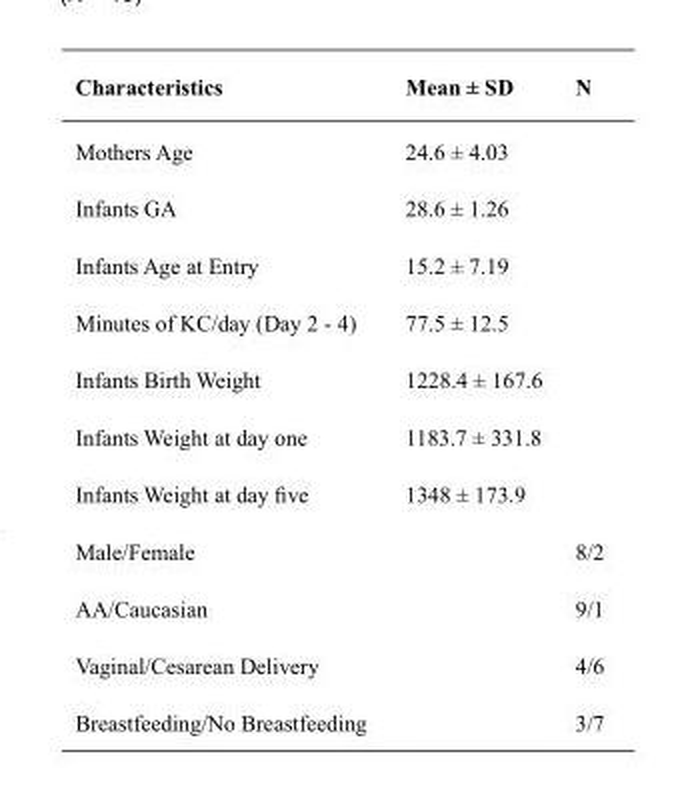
<table><thead><tr><td>Characteristics</td><td>Mean ± SD</td><td>N</td></tr></thead><tbody><tr><td>Mothers Age</td><td>24.6 ± 4.03</td><td></td></tr><tr><td>Infants GA</td><td>28.6 ± 1.26</td><td></td></tr><tr><td>Infants Age at Entry</td><td>15.2 ± 7.19</td><td></td></tr><tr><td>Minutes of KC/day (Day 2 - 4)</td><td>77.5 ± 12.5</td><td></td></tr><tr><td>Infants Birth Weight</td><td>1228.4 ± 167.6</td><td></td></tr><tr><td>Infants Weight at day one</td><td>1183.7 ± 331.8</td><td></td></tr><tr><td>Infants Weight at day five</td><td>1348 ± 173.9</td><td></td></tr><tr><td>Male/Female</td><td></td><td>8/2</td></tr><tr><td>AA/Caucasian</td><td></td><td>9/1</td></tr><tr><td>Vaginal/Cesarean Delivery</td><td></td><td>4/6</td></tr><tr><td>Breastfeeding/No Breastfeeding</td><td></td><td>3/7</td></tr></tbody></table>